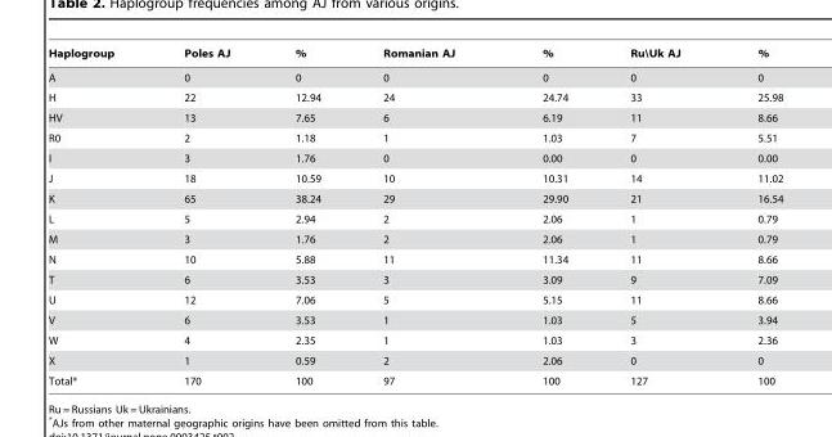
<table><thead><tr><td>Haplogroup</td><td>Poles AJ</td><td>%</td><td>Romanian AJ</td><td>%</td><td>Ru�k AJ</td><td>%</td></tr></thead><tbody><tr><td>A</td><td>0</td><td>0</td><td>0</td><td>0</td><td>0</td><td>0</td></tr><tr><td>H</td><td>22</td><td>12.94</td><td>24</td><td>24.74</td><td>33</td><td>25.98</td></tr><tr><td>HV</td><td>13</td><td>7.65</td><td>6</td><td>6.19</td><td>11</td><td>8.66</td></tr><tr><td>R0</td><td>2</td><td>1.18</td><td>1</td><td>1.03</td><td>7</td><td>5.51</td></tr><tr><td>I</td><td>3</td><td>1.76</td><td>0</td><td>0.00</td><td>0</td><td>0.00</td></tr><tr><td>J</td><td>18</td><td>10.59</td><td>10</td><td>10.31</td><td>14</td><td>11.02</td></tr><tr><td>K</td><td>65</td><td>38.24</td><td>29</td><td>29.90</td><td>21</td><td>16.54</td></tr><tr><td>L</td><td>5</td><td>2.94</td><td>2</td><td>2.06</td><td>1</td><td>0.79</td></tr><tr><td>M</td><td>3</td><td>1.76</td><td>2</td><td>2.06</td><td>1</td><td>0.79</td></tr><tr><td>N</td><td>10</td><td>5.88</td><td>11</td><td>11.34</td><td>11</td><td>8.66</td></tr><tr><td>T</td><td>6</td><td>3.53</td><td>3</td><td>3.09</td><td>9</td><td>7.09</td></tr><tr><td>U</td><td>12</td><td>7.06</td><td>5</td><td>5.15</td><td>11</td><td>8.66</td></tr><tr><td>V</td><td>6</td><td>3.53</td><td>1</td><td>1.03</td><td>5</td><td>3.94</td></tr><tr><td>W</td><td>4</td><td>2.35</td><td>1</td><td>1.03</td><td>3</td><td>2.36</td></tr><tr><td>X</td><td>1</td><td>0.59</td><td>2</td><td>2.06</td><td>0</td><td>0</td></tr><tr><td>Total*</td><td>170</td><td>100</td><td>97</td><td>100</td><td>127</td><td>100</td></tr></tbody></table>